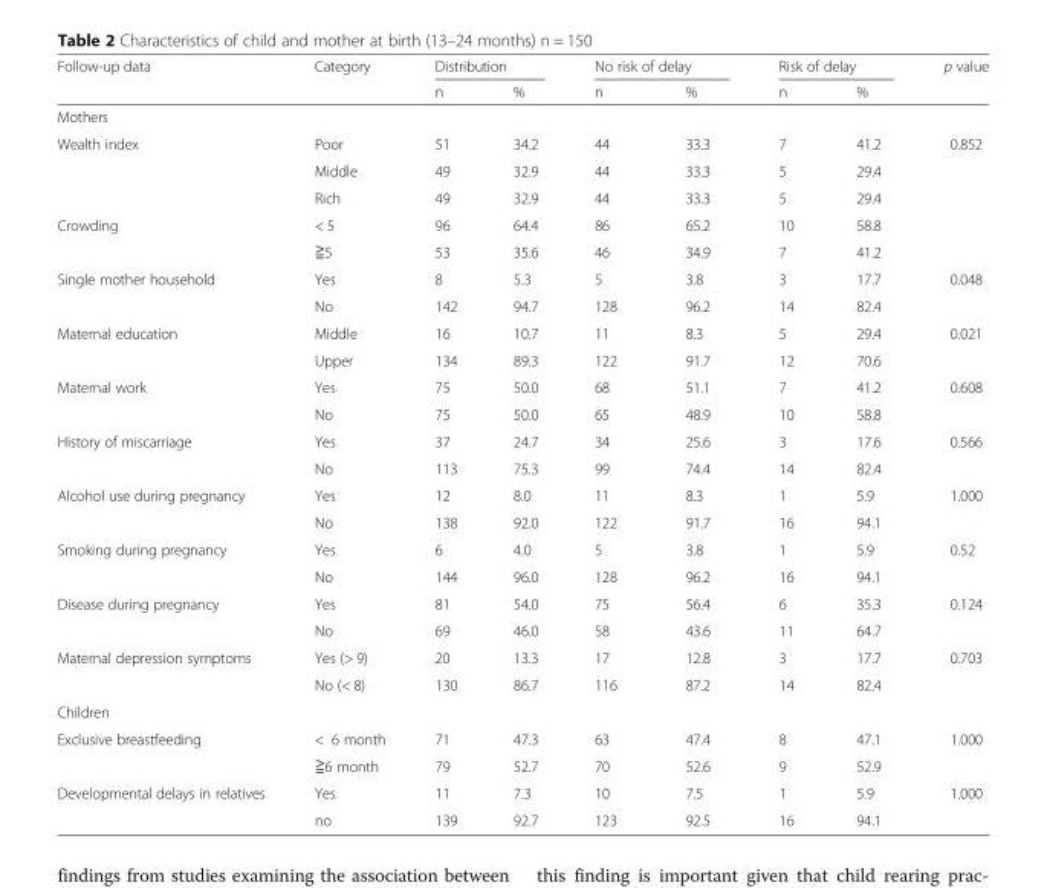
<table><thead><tr><td rowspan="2">Follow-up data</td><td rowspan="2">Category</td><td colspan="2">Distribution</td><td colspan="2">No risk of delay</td><td colspan="2">Risk of delay</td><td rowspan="2">p value</td></tr><tr><td>n</td><td>%</td><td>n</td><td>%</td><td>n</td><td>%</td></tr></thead><tbody><tr><td colspan="9">Mothers</td></tr><tr><td rowspan="3">Wealth index</td><td>Poor</td><td>51</td><td>34.2</td><td>44</td><td>33.3</td><td>7</td><td>41.2</td><td rowspan="3">0.852</td></tr><tr><td>Middle</td><td>49</td><td>32.9</td><td>44</td><td>33.3</td><td>5</td><td>29.4</td></tr><tr><td>Rich</td><td>49</td><td>32.9</td><td>44</td><td>33.3</td><td>5</td><td>29.4</td></tr><tr><td rowspan="2">Crowding</td><td>&lt; 5</td><td>96</td><td>64.4</td><td>86</td><td>65.2</td><td>10</td><td>58.8</td><td></td></tr><tr><td>≧5</td><td>53</td><td>35.6</td><td>46</td><td>34.9</td><td>7</td><td>41.2</td><td></td></tr><tr><td rowspan="2">Single mother household</td><td>Yes</td><td>8</td><td>5.3</td><td>5</td><td>3.8</td><td>3</td><td>17.7</td><td rowspan="2">0.048</td></tr><tr><td>No</td><td>142</td><td>94.7</td><td>128</td><td>96.2</td><td>14</td><td>82.4</td></tr><tr><td rowspan="2">Maternal education</td><td>Middle</td><td>16</td><td>10.7</td><td>11</td><td>8.3</td><td>5</td><td>29.4</td><td rowspan="2">0.021</td></tr><tr><td>Upper</td><td>134</td><td>89.3</td><td>122</td><td>91.7</td><td>12</td><td>70.6</td></tr><tr><td rowspan="2">Maternal work</td><td>Yes</td><td>75</td><td>50.0</td><td>68</td><td>51.1</td><td>7</td><td>41.2</td><td rowspan="2">0.608</td></tr><tr><td>No</td><td>75</td><td>50.0</td><td>65</td><td>48.9</td><td>10</td><td>58.8</td></tr><tr><td rowspan="2">History of miscarriage</td><td>Yes</td><td>37</td><td>24.7</td><td>34</td><td>25.6</td><td>3</td><td>17.6</td><td rowspan="2">0.566</td></tr><tr><td>No</td><td>113</td><td>75.3</td><td>99</td><td>74.4</td><td>14</td><td>82.4</td></tr><tr><td rowspan="2">Alcohol use during pregnancy</td><td>Yes</td><td>12</td><td>8.0</td><td>11</td><td>8.3</td><td>1</td><td>5.9</td><td rowspan="2">1.000</td></tr><tr><td>No</td><td>138</td><td>92.0</td><td>122</td><td>91.7</td><td>16</td><td>94.1</td></tr><tr><td rowspan="2">Smoking during pregnancy</td><td>Yes</td><td>6</td><td>4.0</td><td>5</td><td>3.8</td><td>1</td><td>5.9</td><td rowspan="2">0.52</td></tr><tr><td>No</td><td>144</td><td>96.0</td><td>128</td><td>96.2</td><td>16</td><td>94.1</td></tr><tr><td rowspan="2">Disease during pregnancy</td><td>Yes</td><td>81</td><td>54.0</td><td>75</td><td>56.4</td><td>6</td><td>35.3</td><td rowspan="2">0.124</td></tr><tr><td>No</td><td>69</td><td>46.0</td><td>58</td><td>43.6</td><td>11</td><td>64.7</td></tr><tr><td rowspan="2">Maternal depression symptoms</td><td>Yes (&gt; 9)</td><td>20</td><td>13.3</td><td>17</td><td>12.8</td><td>3</td><td>17.7</td><td>0.703</td></tr><tr><td>No (&lt; 8)</td><td>130</td><td>86.7</td><td>116</td><td>87.2</td><td>14</td><td>82.4</td><td></td></tr><tr><td colspan="9">Children</td></tr><tr><td rowspan="2">Exclusive breastfeeding</td><td>&lt; 6 month</td><td>71</td><td>47.3</td><td>63</td><td>47.4</td><td>8</td><td>47.1</td><td rowspan="2">1.000</td></tr><tr><td>≧6 month</td><td>79</td><td>52.7</td><td>70</td><td>52.6</td><td>9</td><td>52.9</td></tr><tr><td rowspan="2">Developmental delays in relatives</td><td>Yes</td><td>11</td><td>7.3</td><td>10</td><td>7.5</td><td>1</td><td>5.9</td><td rowspan="2">1.000</td></tr><tr><td>no</td><td>139</td><td>92.7</td><td>123</td><td>92.5</td><td>16</td><td>94.1</td></tr></tbody></table>